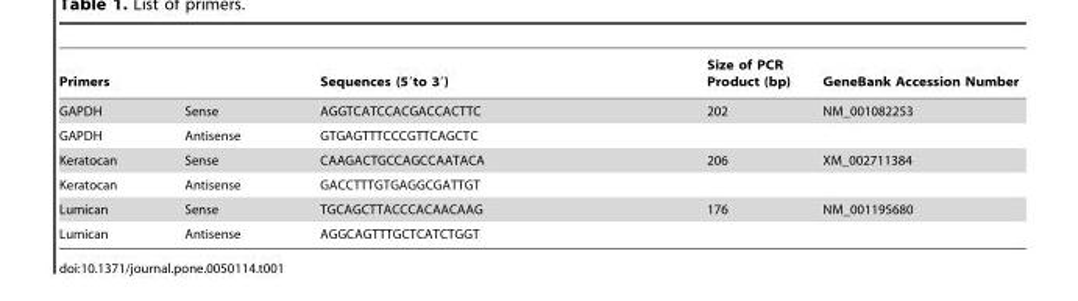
<table><thead><tr><td>Primers</td><td></td><td>Sequences (5′to 3′)</td><td>Size of PCR Product (bp)</td><td>GeneBank Accession Number</td></tr></thead><tbody><tr><td>GAPDH</td><td>Sense</td><td>AGGTCATCCACGACCACTTC</td><td>202</td><td>NM_001082253</td></tr><tr><td>GAPDH</td><td>Antisense</td><td>GTGAGTTTCCCGTTCAGCTC</td><td></td><td></td></tr><tr><td>Keratocan</td><td>Sense</td><td>CAAGACTGCCAGCCAATACA</td><td>206</td><td>XM_002711384</td></tr><tr><td>Keratocan</td><td>Antisense</td><td>GACCTTTGTGAGGCGATTGT</td><td></td><td></td></tr><tr><td>Lumican</td><td>Sense</td><td>TGCAGCTTACCCACAACAAG</td><td>176</td><td>NM_001195680</td></tr><tr><td>Lumican</td><td>Antisense</td><td>AGGCAGTTTGCTCATCTGGT</td><td></td><td></td></tr></tbody></table>